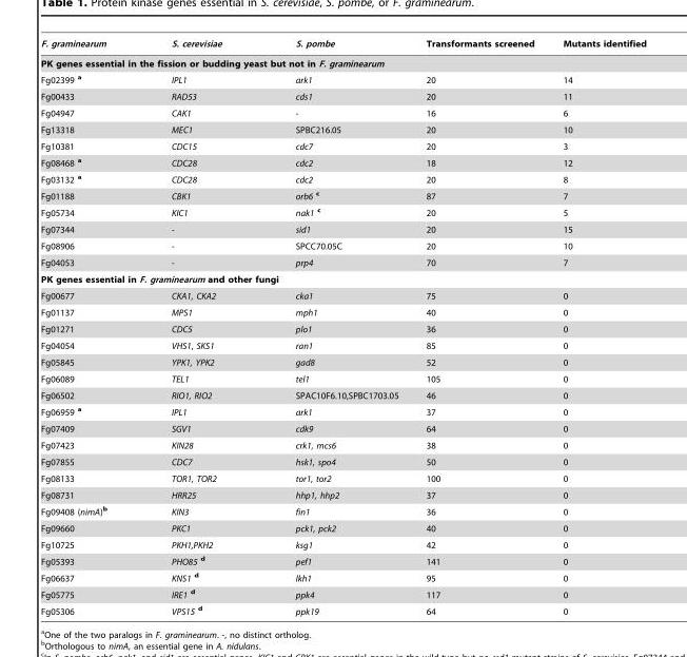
<table><thead><tr><td>F. graminearum</td><td>S. cerevisiae</td><td>S. pombe</td><td>Transformants screened</td><td>Mutants identified</td></tr></thead><tbody><tr><td colspan="5">PK genes essential in the fission or budding yeast but not in F. graminearum</td></tr><tr><td>Fg02399 a</td><td>IPL1</td><td>ark1</td><td>20</td><td>14</td></tr><tr><td>Fg00433</td><td>RAD53</td><td>cds1</td><td>20</td><td>11</td></tr><tr><td>Fg04947</td><td>CAK1</td><td>-</td><td>16</td><td>6</td></tr><tr><td>Fg13318</td><td>MEC1</td><td>SPBC216.05</td><td>20</td><td>10</td></tr><tr><td>Fg10381</td><td>CDC15</td><td>cdc7</td><td>20</td><td>3</td></tr><tr><td>Fg08468 a</td><td>CDC28</td><td>cdc2</td><td>18</td><td>12</td></tr><tr><td>Fg03132 a</td><td>CDC28</td><td>cdc2</td><td>20</td><td>8</td></tr><tr><td>Fg01188</td><td>CBK1</td><td>orb6 c</td><td>87</td><td>7</td></tr><tr><td>Fg05734</td><td>KIC1</td><td>nak1 c</td><td>20</td><td>5</td></tr><tr><td>Fg07344</td><td>-</td><td>sid1</td><td>20</td><td>15</td></tr><tr><td>Fg08906</td><td>-</td><td>SPCC70.05C</td><td>20</td><td>10</td></tr><tr><td>Fg04053</td><td>-</td><td>prp4</td><td>70</td><td>7</td></tr><tr><td colspan="5">PK genes essential in F. graminearum and other fungi</td></tr><tr><td>Fg00677</td><td>CKA1, CKA2</td><td>cka1</td><td>75</td><td>0</td></tr><tr><td>Fg01137</td><td>MPS1</td><td>mph1</td><td>40</td><td>0</td></tr><tr><td>Fg01271</td><td>CDC5</td><td>plo1</td><td>36</td><td>0</td></tr><tr><td>Fg04054</td><td>VHS1, SKS1</td><td>ran1</td><td>85</td><td>0</td></tr><tr><td>Fg05845</td><td>YPK1, YPK2</td><td>gad8</td><td>52</td><td>0</td></tr><tr><td>Fg06089</td><td>TEL1</td><td>tel1</td><td>105</td><td>0</td></tr><tr><td>Fg06502</td><td>RIO1, RIO2</td><td>SPAC10F6.10,SPBC1703.05</td><td>46</td><td>0</td></tr><tr><td>Fg06959 a</td><td>IPL1</td><td>ark1</td><td>37</td><td>0</td></tr><tr><td>Fg07409</td><td>SGV1</td><td>cdk9</td><td>64</td><td>0</td></tr><tr><td>Fg07423</td><td>KIN28</td><td>crk1, mcs6</td><td>38</td><td>0</td></tr><tr><td>Fg07855</td><td>CDC7</td><td>hsk1, spo4</td><td>50</td><td>0</td></tr><tr><td>Fg08133</td><td>TOR1, TOR2</td><td>tor1, tor2</td><td>100</td><td>0</td></tr><tr><td>Fg08731</td><td>HRR25</td><td>hhp1, hhp2</td><td>37</td><td>0</td></tr><tr><td>Fg09408 (nimA)<sup>b</sup></td><td>KIN3</td><td>fin1</td><td>36</td><td>0</td></tr><tr><td>Fg09660</td><td>PKC1</td><td>pck1, pck2</td><td>40</td><td>0</td></tr><tr><td>Fg10725</td><td>PKH1,PKH2</td><td>ksg1</td><td>42</td><td>0</td></tr><tr><td>Fg05393</td><td>PHO85 d</td><td>pef1</td><td>141</td><td>0</td></tr><tr><td>Fg06637</td><td>KNS1 d</td><td>lkh1</td><td>95</td><td>0</td></tr><tr><td>Fg05775</td><td>IRE1 d</td><td>ppk4</td><td>117</td><td>0</td></tr><tr><td>Fg05306</td><td>VPS15 d</td><td>ppk19</td><td>64</td><td>0</td></tr></tbody></table>